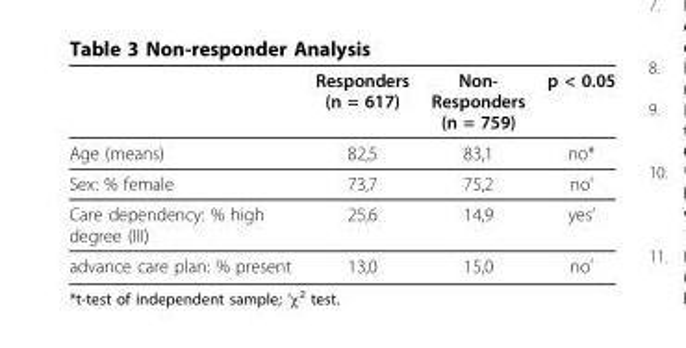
<table><thead><tr><td></td><td>Responders (n = 617)</td><td>Non- Responders (n = 759)</td><td>p &lt; 0.05</td></tr></thead><tbody><tr><td>Age (means)</td><td>82,5</td><td>83,1</td><td>no*</td></tr><tr><td>Sex: % female</td><td>73,7</td><td>75,2</td><td>no’</td></tr><tr><td>Care dependency: % high degree (III)</td><td>25,6</td><td>14,9</td><td>yes’</td></tr><tr><td>advance care plan: % present</td><td>13,0</td><td>15,0</td><td>no’</td></tr></tbody></table>